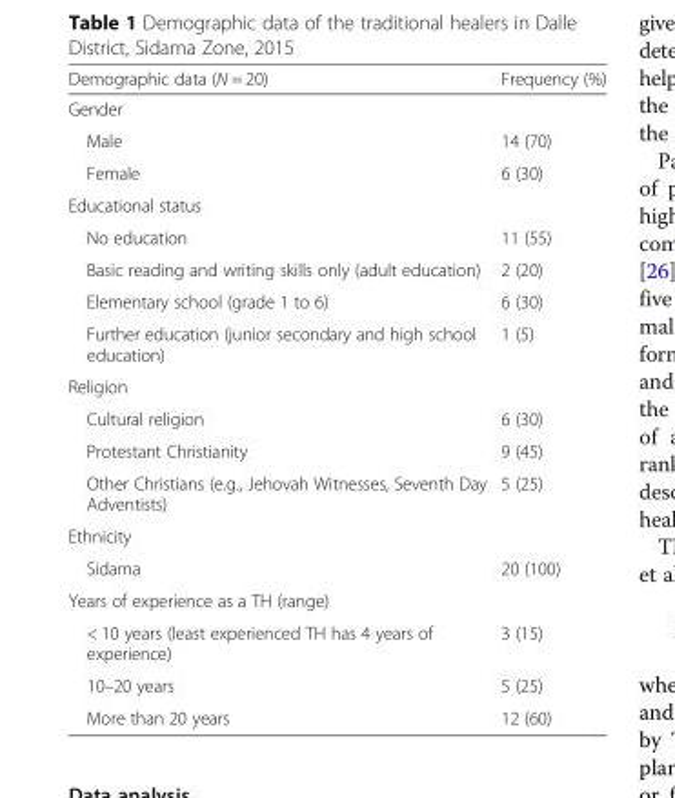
<table><thead><tr><td>Demographic data (N = 20)</td><td>Frequency (%)</td></tr></thead><tbody><tr><td colspan="2">Gender</td></tr><tr><td>Male</td><td>14 (70)</td></tr><tr><td>Female</td><td>6 (30)</td></tr><tr><td colspan="2">Educational status</td></tr><tr><td>No education</td><td>11 (55)</td></tr><tr><td>Basic reading and writing skills only (adult education)</td><td>2 (20)</td></tr><tr><td>Elementary school (grade 1 to 6)</td><td>6 (30)</td></tr><tr><td>Further education (junior secondary and high school education)</td><td>1 (5)</td></tr><tr><td colspan="2">Religion</td></tr><tr><td>Cultural religion</td><td>6 (30)</td></tr><tr><td>Protestant Christianity</td><td>9 (45)</td></tr><tr><td>Other Christians (e.g., Jehovah Witnesses, Seventh Day Adventists)</td><td>5 (25)</td></tr><tr><td colspan="2">Ethnicity</td></tr><tr><td>Sidama</td><td>20 (100)</td></tr><tr><td colspan="2">Years of experience as a TH (range)</td></tr><tr><td>&lt; 10 years (least experienced TH has 4 years of experience)</td><td>3 (15)</td></tr><tr><td>10–20 years</td><td>5 (25)</td></tr><tr><td>More than 20 years</td><td>12 (60)</td></tr></tbody></table>